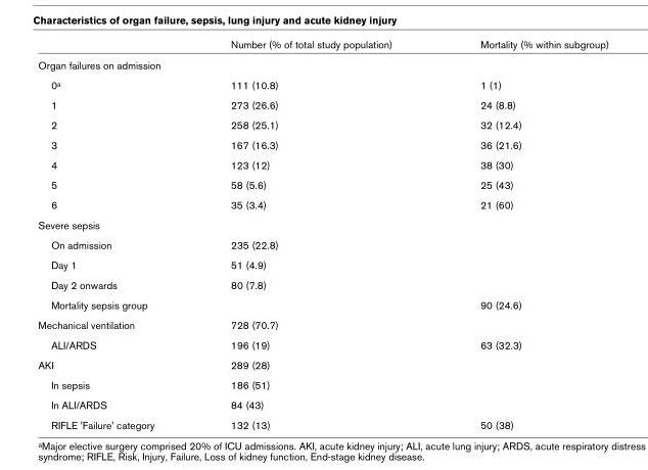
<table><thead><tr><td></td><td>Number (% of total study population)</td><td>Mortality (% within subgroup)</td></tr></thead><tbody><tr><td colspan="3">Organ failures on admission</td></tr><tr><td>0<sup>a</sup></td><td>111 (10.8)</td><td>1 (1)</td></tr><tr><td>1</td><td>273 (26.6)</td><td>24 (8.8)</td></tr><tr><td>2</td><td>258 (25.1)</td><td>32 (12.4)</td></tr><tr><td>3</td><td>167 (16.3)</td><td>36 (21.6)</td></tr><tr><td>4</td><td>123 (12)</td><td>38 (30)</td></tr><tr><td>5</td><td>58 (5.6)</td><td>25 (43)</td></tr><tr><td>6</td><td>35 (3.4)</td><td>21 (60)</td></tr><tr><td colspan="3">Severe sepsis</td></tr><tr><td>On admission</td><td>235 (22.8)</td><td></td></tr><tr><td>Day 1</td><td>51 (4.9)</td><td></td></tr><tr><td>Day 2 onwards</td><td>80 (7.8)</td><td></td></tr><tr><td>Mortality sepsis group</td><td></td><td>90 (24.6)</td></tr><tr><td>Mechanical ventilation</td><td>728 (70.7)</td><td></td></tr><tr><td>ALI/ARDS</td><td>196 (19)</td><td>63 (32.3)</td></tr><tr><td>AKI</td><td>289 (28)</td><td></td></tr><tr><td>In sepsis</td><td>186 (51)</td><td></td></tr><tr><td>In ALI/ARDS</td><td>84 (43)</td><td></td></tr><tr><td>RIFLE &#x27;Failure&#x27; category</td><td>132 (13)</td><td>50 (38)</td></tr></tbody></table>